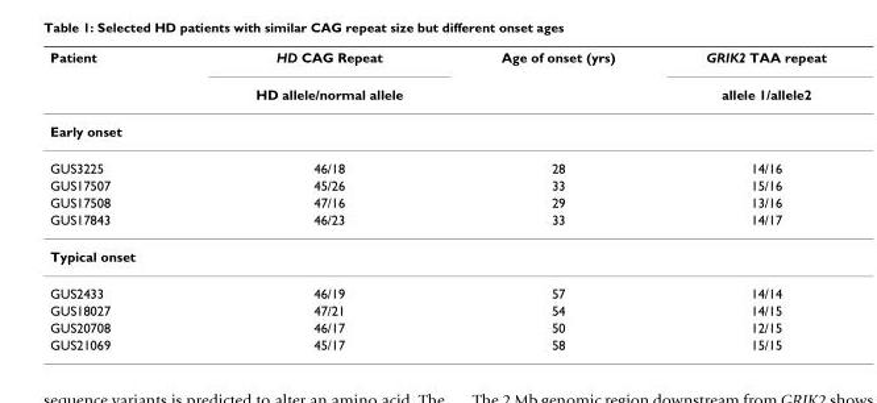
<table><thead><tr><td rowspan="2">Patient</td><td rowspan="2">HD CAG Repeat HD allele/normal allele</td><td rowspan="2">Age of onset (yrs)</td><td rowspan="2">GRIK2 TAA repeat allele 1/allele2</td></tr><tr></tr></thead><tbody><tr><td colspan="4">Early onset</td></tr><tr><td>GUS3225</td><td>46/18</td><td>28</td><td>14/16</td></tr><tr><td>GUS17507</td><td>45/26</td><td>33</td><td>15/16</td></tr><tr><td>GUS17508</td><td>47/16</td><td>29</td><td>13/16</td></tr><tr><td>GUS17843</td><td>46/23</td><td>33</td><td>14/17</td></tr><tr><td colspan="4">Typical onset</td></tr><tr><td>GUS2433</td><td>46/19</td><td>57</td><td>14/14</td></tr><tr><td>GUS18027</td><td>47/21</td><td>54</td><td>14/15</td></tr><tr><td>GUS20708</td><td>46/17</td><td>50</td><td>12/15</td></tr><tr><td>GUS21069</td><td>45/17</td><td>58</td><td>15/15</td></tr></tbody></table>